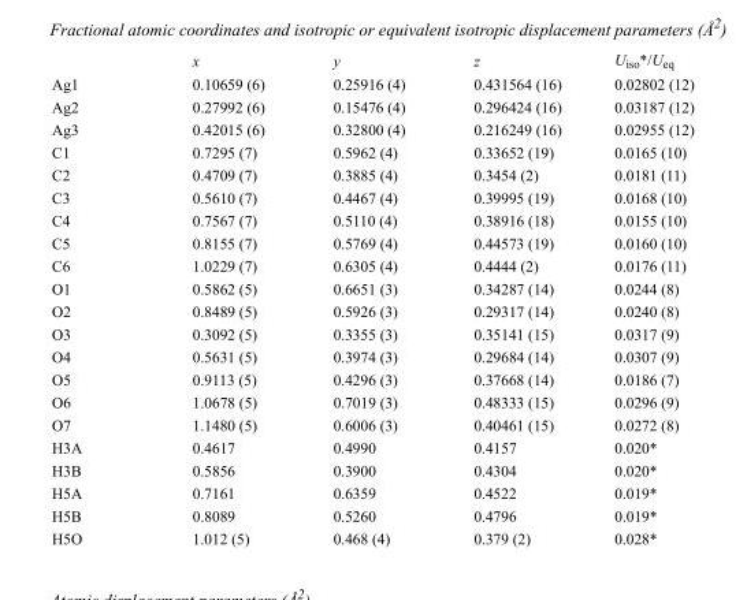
<table><thead><tr><td></td><td>x</td><td>y</td><td>z</td><td>U<sub>iso</sub>*/U<sub>eq</sub></td></tr></thead><tbody><tr><td>Ag1</td><td>0.10659 (6)</td><td>0.25916 (4)</td><td>0.431564 (16)</td><td>0.02802 (12)</td></tr><tr><td>Ag2</td><td>0.27992 (6)</td><td>0.15476 (4)</td><td>0.296424 (16)</td><td>0.03187 (12)</td></tr><tr><td>Ag3</td><td>0.42015 (6)</td><td>0.32800 (4)</td><td>0.216249 (16)</td><td>0.02955 (12)</td></tr><tr><td>C1</td><td>0.7295 (7)</td><td>0.5962 (4)</td><td>0.33652 (19)</td><td>0.0165 (10)</td></tr><tr><td>C2</td><td>0.4709 (7)</td><td>0.3885 (4)</td><td>0.3454 (2)</td><td>0.0181 (11)</td></tr><tr><td>C3</td><td>0.5610 (7)</td><td>0.4467 (4)</td><td>0.39995 (19)</td><td>0.0168 (10)</td></tr><tr><td>C4</td><td>0.7567 (7)</td><td>0.5110 (4)</td><td>0.38916 (18)</td><td>0.0155 (10)</td></tr><tr><td>C5</td><td>0.8155 (7)</td><td>0.5769 (4)</td><td>0.44573 (19)</td><td>0.0160 (10)</td></tr><tr><td>C6</td><td>1.0229 (7)</td><td>0.6305 (4)</td><td>0.4444 (2)</td><td>0.0176 (11)</td></tr><tr><td>O1</td><td>0.5862 (5)</td><td>0.6651 (3)</td><td>0.34287 (14)</td><td>0.0244 (8)</td></tr><tr><td>O2</td><td>0.8489 (5)</td><td>0.5926 (3)</td><td>0.29317 (14)</td><td>0.0240 (8)</td></tr><tr><td>O3</td><td>0.3092 (5)</td><td>0.3355 (3)</td><td>0.35141 (15)</td><td>0.0317 (9)</td></tr><tr><td>O4</td><td>0.5631 (5)</td><td>0.3974 (3)</td><td>0.29684 (14)</td><td>0.0307 (9)</td></tr><tr><td>O5</td><td>0.9113 (5)</td><td>0.4296 (3)</td><td>0.37668 (14)</td><td>0.0186 (7)</td></tr><tr><td>O6</td><td>1.0678 (5)</td><td>0.7019 (3)</td><td>0.48333 (15)</td><td>0.0296 (9)</td></tr><tr><td>O7</td><td>1.1480 (5)</td><td>0.6006 (3)</td><td>0.40461 (15)</td><td>0.0272 (8)</td></tr><tr><td>H3A</td><td>0.4617</td><td>0.4990</td><td>0.4157</td><td>0.020*</td></tr><tr><td>H3B</td><td>0.5856</td><td>0.3900</td><td>0.4304</td><td>0.020*</td></tr><tr><td>H5A</td><td>0.7161</td><td>0.6359</td><td>0.4522</td><td>0.019*</td></tr><tr><td>H5B</td><td>0.8089</td><td>0.5260</td><td>0.4796</td><td>0.019*</td></tr><tr><td>H5O</td><td>1.012 (5)</td><td>0.468 (4)</td><td>0.379 (2)</td><td>0.028*</td></tr></tbody></table>